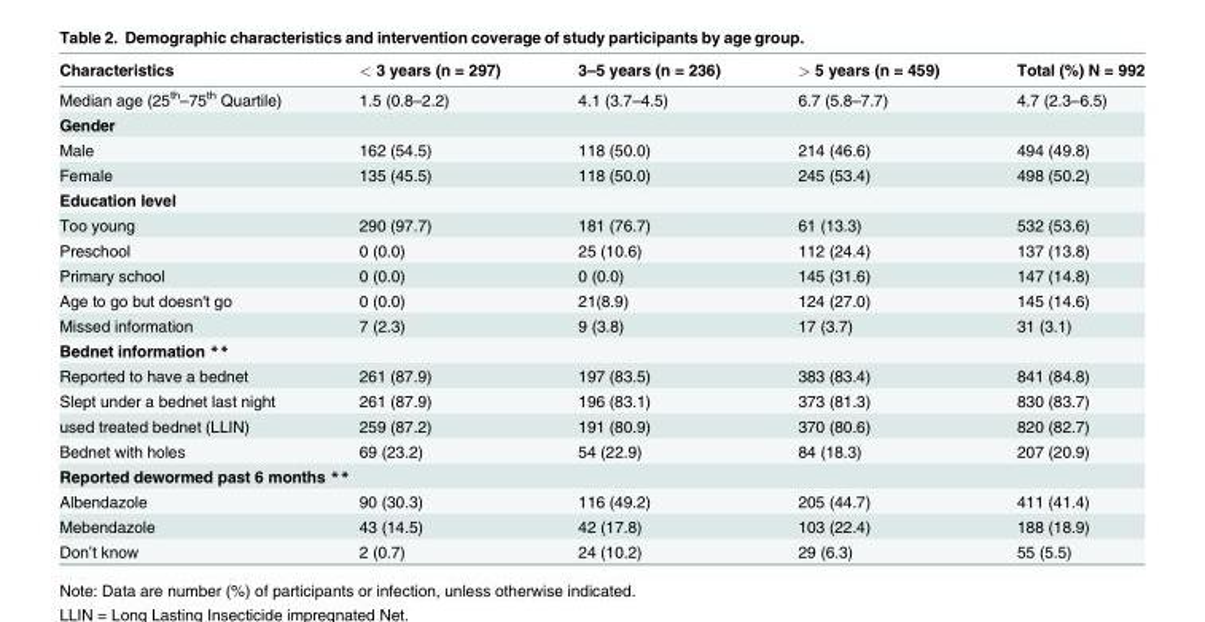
<table><thead><tr><td>Characteristics</td><td>&lt; 3 years (n = 297)</td><td>3–5 years (n = 236)</td><td>&gt; 5 years (n = 459)</td><td>Total (%) N = 992</td></tr></thead><tbody><tr><td>Median age (25<sup>th</sup>–75<sup>th</sup> Quartile)</td><td>1.5 (0.8–2.2)</td><td>4.1 (3.7–4.5)</td><td>6.7 (5.8–7.7)</td><td>4.7 (2.3–6.5)</td></tr><tr><td colspan="5">Gender</td></tr><tr><td>Male</td><td>162 (54.5)</td><td>118 (50.0)</td><td>214 (46.6)</td><td>494 (49.8)</td></tr><tr><td>Female</td><td>135 (45.5)</td><td>118 (50.0)</td><td>245 (53.4)</td><td>498 (50.2)</td></tr><tr><td colspan="5">Education level</td></tr><tr><td>Too young</td><td>290 (97.7)</td><td>181 (76.7)</td><td>61 (13.3)</td><td>532 (53.6)</td></tr><tr><td>Preschool</td><td>0 (0.0)</td><td>25 (10.6)</td><td>112 (24.4)</td><td>137 (13.8)</td></tr><tr><td>Primary school</td><td>0 (0.0)</td><td>0 (0.0)</td><td>145 (31.6)</td><td>147 (14.8)</td></tr><tr><td>Age to go but doesn&#x27;t go</td><td>0 (0.0)</td><td>21(8.9)</td><td>124 (27.0)</td><td>145 (14.6)</td></tr><tr><td>Missed information</td><td>7 (2.3)</td><td>9 (3.8)</td><td>17 (3.7)</td><td>31 (3.1)</td></tr><tr><td colspan="5">Bednet information **</td></tr><tr><td>Reported to have a bednet</td><td>261 (87.9)</td><td>197 (83.5)</td><td>383 (83.4)</td><td>841 (84.8)</td></tr><tr><td>Slept under a bednet last night</td><td>261 (87.9)</td><td>196 (83.1)</td><td>373 (81.3)</td><td>830 (83.7)</td></tr><tr><td>used treated bednet (LLIN)</td><td>259 (87.2)</td><td>191 (80.9)</td><td>370 (80.6)</td><td>820 (82.7)</td></tr><tr><td>Bednet with holes</td><td>69 (23.2)</td><td>54 (22.9)</td><td>84 (18.3)</td><td>207 (20.9)</td></tr><tr><td colspan="5">Reported dewormed past 6 months **</td></tr><tr><td>Albendazole</td><td>90 (30.3)</td><td>116 (49.2)</td><td>205 (44.7)</td><td>411 (41.4)</td></tr><tr><td>Mebendazole</td><td>43 (14.5)</td><td>42 (17.8)</td><td>103 (22.4)</td><td>188 (18.9)</td></tr><tr><td>Don’t know</td><td>2 (0.7)</td><td>24 (10.2)</td><td>29 (6.3)</td><td>55 (5.5)</td></tr></tbody></table>